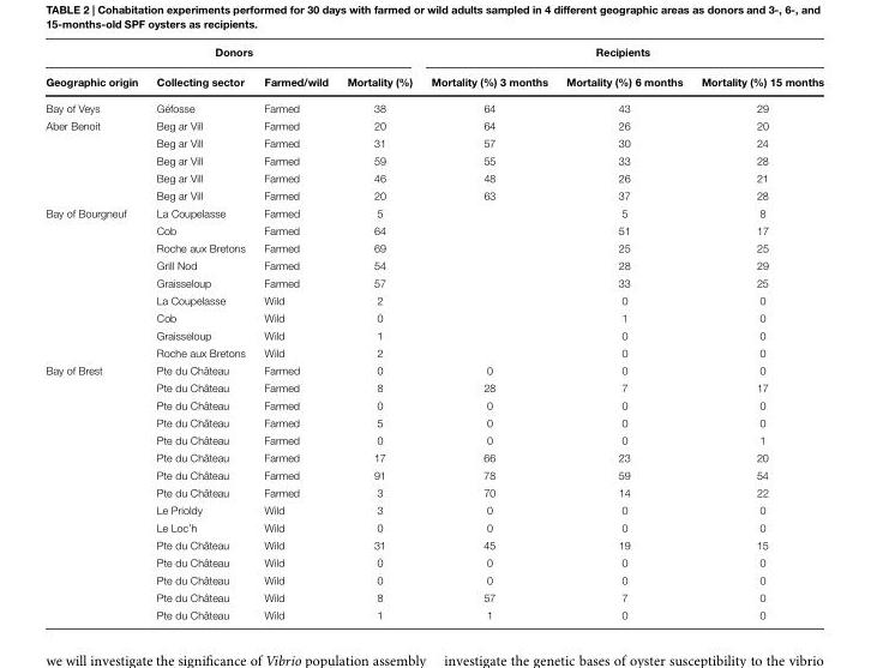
<table><thead><tr><td colspan="4">Donors</td><td colspan="3">Recipients</td></tr><tr><td>Geographic origin</td><td>Collecting sector</td><td>Farmed/wild</td><td>Mortality (%)</td><td>Mortality (%) 3 months</td><td>Mortality (%) 6 months</td><td>Mortality (%) 15 months</td></tr></thead><tbody><tr><td>Bay of Veys</td><td>Géfosse</td><td>Farmed</td><td>38</td><td>64</td><td>43</td><td>29</td></tr><tr><td rowspan="5">Aber Benoit</td><td>Beg ar Vill</td><td>Farmed</td><td>20</td><td>64</td><td>26</td><td>20</td></tr><tr><td>Beg ar Vill</td><td>Farmed</td><td>31</td><td>57</td><td>30</td><td>24</td></tr><tr><td>Beg ar Vill</td><td>Farmed</td><td>59</td><td>55</td><td>33</td><td>28</td></tr><tr><td>Beg ar Vill</td><td>Farmed</td><td>46</td><td>48</td><td>26</td><td>21</td></tr><tr><td>Beg ar Vill</td><td>Farmed</td><td>20</td><td>63</td><td>37</td><td>28</td></tr><tr><td rowspan="9">Bay of Bourgneuf</td><td>La Coupelasse</td><td>Farmed</td><td>5</td><td></td><td>5</td><td>8</td></tr><tr><td>Cob</td><td>Farmed</td><td>64</td><td></td><td>51</td><td>17</td></tr><tr><td>Roche aux Bretons</td><td>Farmed</td><td>69</td><td></td><td>25</td><td>25</td></tr><tr><td>Grill Nod</td><td>Farmed</td><td>54</td><td></td><td>28</td><td>29</td></tr><tr><td>Graisseloup</td><td>Farmed</td><td>57</td><td></td><td>33</td><td>25</td></tr><tr><td>La Coupelasse</td><td>Wild</td><td>2</td><td></td><td>0</td><td>0</td></tr><tr><td>Cob</td><td>Wild</td><td>0</td><td></td><td>1</td><td>0</td></tr><tr><td>Graisseloup</td><td>Wild</td><td>1</td><td></td><td>0</td><td>0</td></tr><tr><td>Roche aux Bretons</td><td>Wild</td><td>2</td><td></td><td>0</td><td>0</td></tr><tr><td rowspan="15">Bay of Brest</td><td>Pte du Château</td><td>Farmed</td><td>0</td><td>0</td><td>0</td><td>0</td></tr><tr><td>Pte du Château</td><td>Farmed</td><td>8</td><td>28</td><td>7</td><td>17</td></tr><tr><td>Pte du Château</td><td>Farmed</td><td>0</td><td>0</td><td>0</td><td>0</td></tr><tr><td>Pte du Château</td><td>Farmed</td><td>5</td><td>0</td><td>0</td><td>0</td></tr><tr><td>Pte du Château</td><td>Farmed</td><td>0</td><td>0</td><td>0</td><td>1</td></tr><tr><td>Pte du Château</td><td>Farmed</td><td>17</td><td>66</td><td>23</td><td>20</td></tr><tr><td>Pte du Château</td><td>Farmed</td><td>91</td><td>78</td><td>59</td><td>54</td></tr><tr><td>Pte du Château</td><td>Farmed</td><td>3</td><td>70</td><td>14</td><td>22</td></tr><tr><td>Le Prioldy</td><td>Wild</td><td>3</td><td>0</td><td>0</td><td>0</td></tr><tr><td>Le Loc’h</td><td>Wild</td><td>0</td><td>0</td><td>0</td><td>0</td></tr><tr><td>Pte du Château</td><td>Wild</td><td>31</td><td>45</td><td>19</td><td>15</td></tr><tr><td>Pte du Château</td><td>Wild</td><td>0</td><td>0</td><td>0</td><td>0</td></tr><tr><td>Pte du Château</td><td>Wild</td><td>0</td><td>0</td><td>0</td><td>0</td></tr><tr><td>Pte du Château</td><td>Wild</td><td>8</td><td>57</td><td>7</td><td>0</td></tr><tr><td>Pte du Château</td><td>Wild</td><td>1</td><td>1</td><td>0</td><td>0</td></tr></tbody></table>